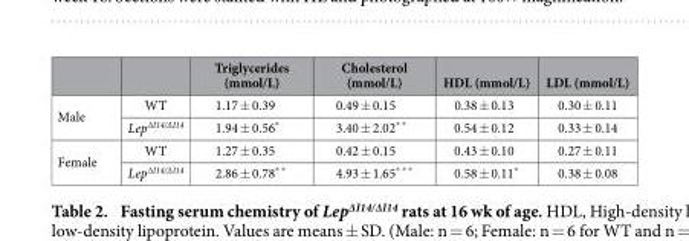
<table><thead><tr><td></td><td></td><td>Triglycerides (mmol/L)</td><td>Cholesterol (mmol/L)</td><td>HDL (mmol/L)</td><td>LDL (mmol/L)</td></tr></thead><tbody><tr><td rowspan="2">Male</td><td>WT</td><td>1.17 ± 0.39</td><td>0.49 ± 0.15</td><td>0.38 ± 0.13</td><td>0.30 ± 0.11</td></tr><tr><td>Lep<sup>ΔI14/ΔI14</sup></td><td>1.94 ± 0.56*</td><td>3.40 ± 2.02* *</td><td>0.54 ± 0.12</td><td>0.33 ± 0.14</td></tr><tr><td rowspan="2">Female</td><td>WT</td><td>1.27 ± 0.35</td><td>0.42 ± 0.15</td><td>0.43 ± 0.10</td><td>0.27 ± 0.11</td></tr><tr><td>Lep<sup>ΔI14/ΔI14</sup></td><td>2.86 ± 0.78* *</td><td>4.93 ± 1.65* * *</td><td>0.58 ± 0.11*</td><td>0.38 ± 0.08</td></tr></tbody></table>